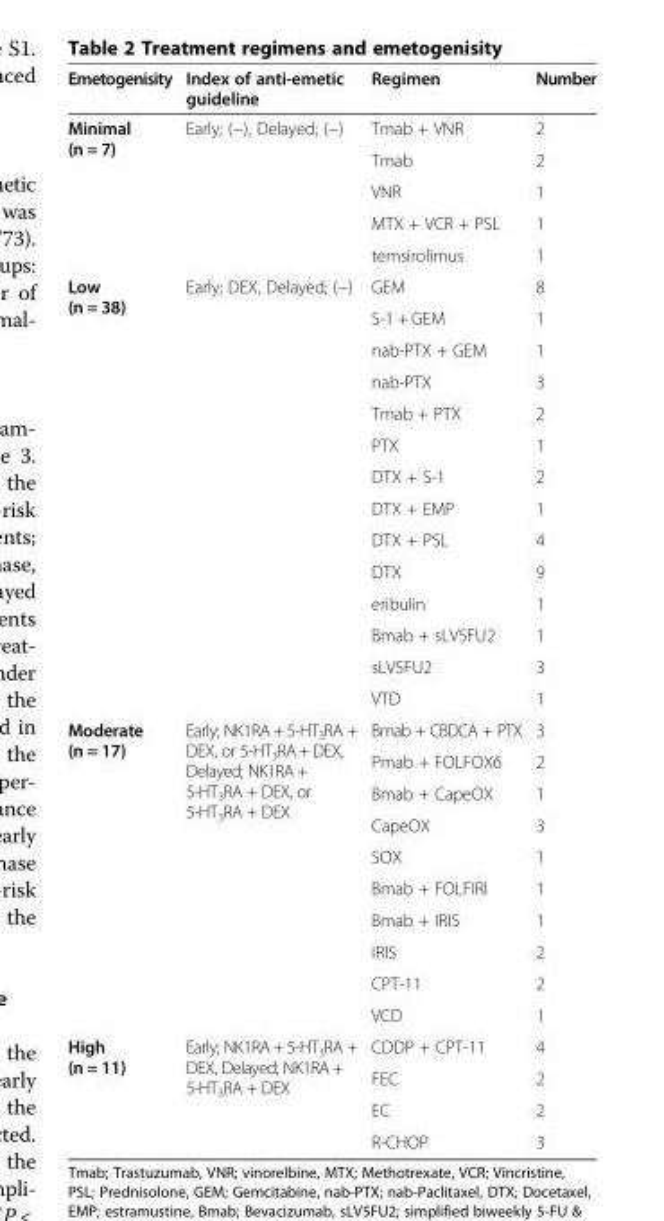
<table><thead><tr><td>Emetogenisity</td><td>Index of anti-emetic guideline</td><td>Regimen</td><td>Number</td></tr></thead><tbody><tr><td rowspan="5">Minimal (n = 7)</td><td rowspan="5">Early; (−), Delayed; (−)</td><td>Tmab + VNR</td><td>2</td></tr><tr><td>Tmab</td><td>2</td></tr><tr><td>VNR</td><td>1</td></tr><tr><td>MTX + VCR + PSL</td><td>1</td></tr><tr><td>temsirolimus</td><td>1</td></tr><tr><td rowspan="14">Low (n = 38)</td><td rowspan="14">Early; DEX, Delayed; (−)</td><td>GEM</td><td>8</td></tr><tr><td>S-1 + GEM</td><td>1</td></tr><tr><td>nab-PTX + GEM</td><td>1</td></tr><tr><td>nab-PTX</td><td>3</td></tr><tr><td>Tmab + PTX</td><td>2</td></tr><tr><td>PTX</td><td>1</td></tr><tr><td>DTX + S-1</td><td>2</td></tr><tr><td>DTX + EMP</td><td>1</td></tr><tr><td>DTX + PSL</td><td>4</td></tr><tr><td>DTX</td><td>9</td></tr><tr><td>eribulin</td><td>1</td></tr><tr><td>Bmab + sLV5FU2</td><td>1</td></tr><tr><td>sLV5FU2</td><td>3</td></tr><tr><td>VTD</td><td>1</td></tr><tr><td rowspan="10">Moderate (n = 17)</td><td rowspan="10">Early; NK1RA + 5-HT<sub>3</sub>RA + DEX, or 5-HT<sub>3</sub>RA + DEX, Delayed; NK1RA + 5-HT<sub>3</sub>RA + DEX, or 5-HT<sub>3</sub>RA + DEX</td><td>Bmab + CBDCA + PTX</td><td>3</td></tr><tr><td>Pmab + FOLFOX6</td><td>2</td></tr><tr><td>Bmab + CapeOX</td><td>1</td></tr><tr><td>CapeOX</td><td>3</td></tr><tr><td>SOX</td><td>1</td></tr><tr><td>Bmab + FOLFIRI</td><td>1</td></tr><tr><td>Bmab + IRIS</td><td>1</td></tr><tr><td>IRIS</td><td>2</td></tr><tr><td>CPT-11</td><td>2</td></tr><tr><td>VCD</td><td>1</td></tr><tr><td rowspan="4">High (n = 11)</td><td rowspan="4">Early; NK1RA + 5-HT<sub>3</sub>RA + DEX, Delayed; NK1RA + 5-HT<sub>3</sub>RA + DEX</td><td>CDDP + CPT-11</td><td>4</td></tr><tr><td>FEC</td><td>2</td></tr><tr><td>EC</td><td>2</td></tr><tr><td>R-CHOP</td><td>3</td></tr></tbody></table>